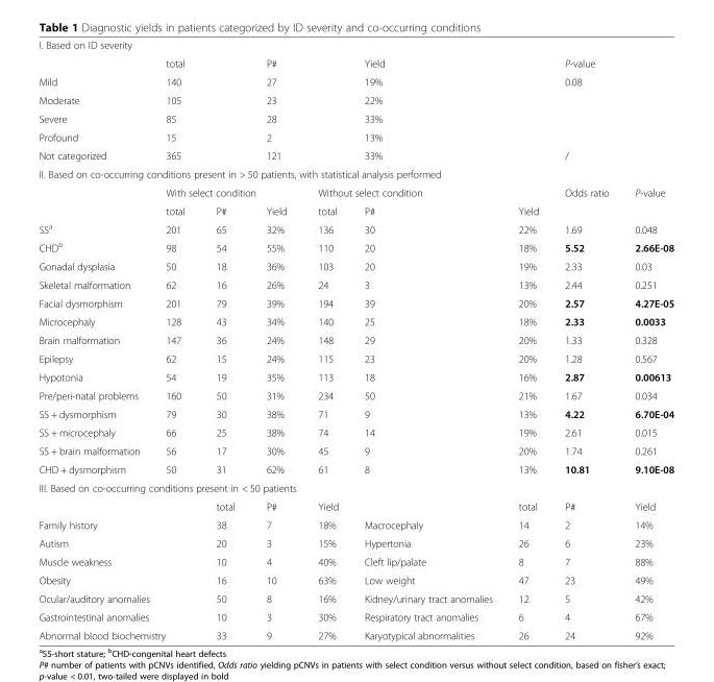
<table><tbody><tr><td colspan="9">I. Based on ID severity</td></tr><tr><td></td><td colspan="2">total</td><td colspan="2">P#</td><td colspan="2">Yield</td><td colspan="2">P-value</td></tr><tr><td>Mild</td><td colspan="2">140</td><td colspan="2">27</td><td colspan="2">19%</td><td rowspan="4" colspan="2">0.08</td></tr><tr><td>Moderate</td><td colspan="2">105</td><td colspan="2">23</td><td colspan="2">22%</td></tr><tr><td>Severe</td><td colspan="2">85</td><td colspan="2">28</td><td colspan="2">33%</td></tr><tr><td>Profound</td><td colspan="2">15</td><td colspan="2">2</td><td colspan="2">13%</td></tr><tr><td>Not categorized</td><td colspan="2">365</td><td colspan="2">121</td><td colspan="2">33%</td><td colspan="2">/</td></tr><tr><td colspan="9">II. Based on co-occurring conditions present in &gt; 50 patients, with statistical analysis performed</td></tr><tr><td rowspan="2"></td><td colspan="3">With select condition</td><td colspan="3">Without select condition</td><td rowspan="2">Odds ratio</td><td rowspan="2">P-value</td></tr><tr><td>total</td><td>P#</td><td>Yield</td><td>total</td><td>P#</td><td>Yield</td></tr><tr><td>SS<sup>a</sup></td><td>201</td><td>65</td><td>32%</td><td>136</td><td>30</td><td>22%</td><td>1.69</td><td>0.048</td></tr><tr><td>CHD<sup>b</sup></td><td>98</td><td>54</td><td>55%</td><td>110</td><td>20</td><td>18%</td><td>5.52</td><td>2.66E-08</td></tr><tr><td>Gonadal dysplasia</td><td>50</td><td>18</td><td>36%</td><td>103</td><td>20</td><td>19%</td><td>2.33</td><td>0.03</td></tr><tr><td>Skeletal malformation</td><td>62</td><td>16</td><td>26%</td><td>24</td><td>3</td><td>13%</td><td>2.44</td><td>0.251</td></tr><tr><td>Facial dysmorphism</td><td>201</td><td>79</td><td>39%</td><td>194</td><td>39</td><td>20%</td><td>2.57</td><td>4.27E-05</td></tr><tr><td>Microcephaly</td><td>128</td><td>43</td><td>34%</td><td>140</td><td>25</td><td>18%</td><td>2.33</td><td>0.0033</td></tr><tr><td>Brain malformation</td><td>147</td><td>36</td><td>24%</td><td>148</td><td>29</td><td>20%</td><td>1.33</td><td>0.328</td></tr><tr><td>Epilepsy</td><td>62</td><td>15</td><td>24%</td><td>115</td><td>23</td><td>20%</td><td>1.28</td><td>0.567</td></tr><tr><td>Hypotonia</td><td>54</td><td>19</td><td>35%</td><td>113</td><td>18</td><td>16%</td><td>2.87</td><td>0.00613</td></tr><tr><td>Pre/peri-natal problems</td><td>160</td><td>50</td><td>31%</td><td>234</td><td>50</td><td>21%</td><td>1.67</td><td>0.034</td></tr><tr><td>SS + dysmorphism</td><td>79</td><td>30</td><td>38%</td><td>71</td><td>9</td><td>13%</td><td>4.22</td><td>6.70E-04</td></tr><tr><td>SS + microcephaly</td><td>66</td><td>25</td><td>38%</td><td>74</td><td>14</td><td>19%</td><td>2.61</td><td>0.015</td></tr><tr><td>SS + brain malformation</td><td>56</td><td>17</td><td>30%</td><td>45</td><td>9</td><td>20%</td><td>1.74</td><td>0.261</td></tr><tr><td>CHD + dysmorphism</td><td>50</td><td>31</td><td>62%</td><td>61</td><td>8</td><td>13%</td><td>10.81</td><td>9.10E-08</td></tr><tr><td colspan="9">III. Based on co-occurring conditions present in &lt; 50 patients</td></tr><tr><td colspan="2"></td><td>total</td><td>P#</td><td>Yield</td><td></td><td>total</td><td>P#</td><td>Yield</td></tr><tr><td colspan="2">Family history</td><td>38</td><td>7</td><td>18%</td><td>Macrocephaly</td><td>14</td><td>2</td><td>14%</td></tr><tr><td colspan="2">Autism</td><td>20</td><td>3</td><td>15%</td><td>Hypertonia</td><td>26</td><td>6</td><td>23%</td></tr><tr><td colspan="2">Muscle weakness</td><td>10</td><td>4</td><td>40%</td><td>Cleft lip/palate</td><td>8</td><td>7</td><td>88%</td></tr><tr><td colspan="2">Obesity</td><td>16</td><td>10</td><td>63%</td><td>Low weight</td><td>47</td><td>23</td><td>49%</td></tr><tr><td colspan="2">Ocular/auditory anomalies</td><td>50</td><td>8</td><td>16%</td><td>Kidney/urinary tract anomalies</td><td>12</td><td>5</td><td>42%</td></tr><tr><td colspan="2">Gastrointestinal anomalies</td><td>10</td><td>3</td><td>30%</td><td>Respiratory tract anomalies</td><td>6</td><td>4</td><td>67%</td></tr><tr><td colspan="2">Abnormal blood biochemistry</td><td>33</td><td>9</td><td>27%</td><td>Karyotypical abnormalities</td><td>26</td><td>24</td><td>92%</td></tr></tbody></table>